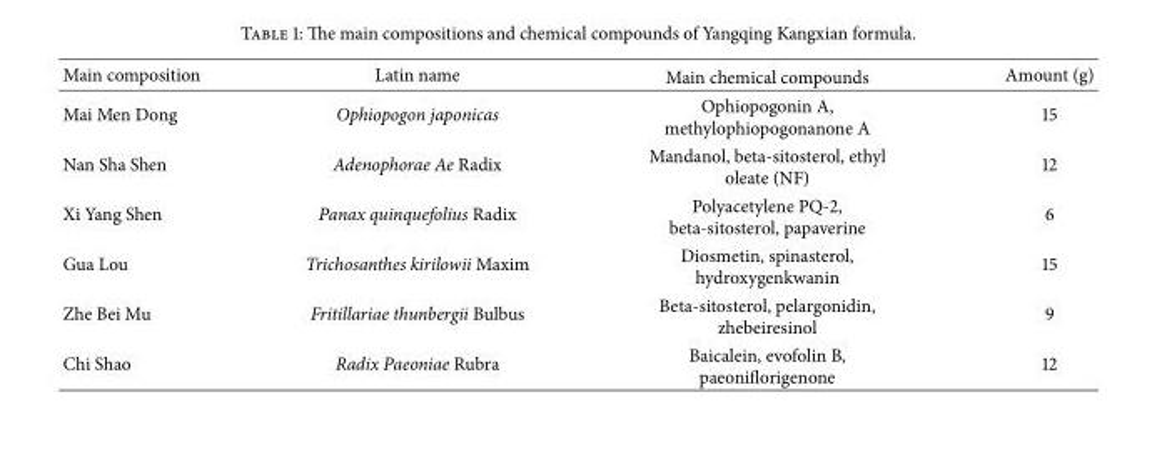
<table><thead><tr><td>Main composition</td><td>Latin name</td><td>Main chemical compounds</td><td>Amount (g)</td></tr></thead><tbody><tr><td>Mai Men Dong</td><td>Ophiopogon japonicas</td><td>Ophiopogonin A, methylophiopogonanone A</td><td>15</td></tr><tr><td>Nan Sha Shen</td><td>Adenophorae Ae Radix</td><td>Mandanol, beta-sitosterol, ethyl oleate (NF)</td><td>12</td></tr><tr><td>Xi Yang Shen</td><td>Panax quinquefolius Radix</td><td>Polyacetylene PQ-2, beta-sitosterol, papaverine</td><td>6</td></tr><tr><td>Gua Lou</td><td>Trichosanthes kirilowii Maxim</td><td>Diosmetin, spinasterol, hydroxygenkwanin</td><td>15</td></tr><tr><td>Zhe Bei Mu</td><td>Fritillariae thunbergii Bulbus</td><td>Beta-sitosterol, pelargonidin, zhebeiresinol</td><td>9</td></tr><tr><td>Chi Shao</td><td>Radix Paeoniae Rubra</td><td>Baicalein, evofolin B, paeoniflorigenone</td><td>12</td></tr></tbody></table>